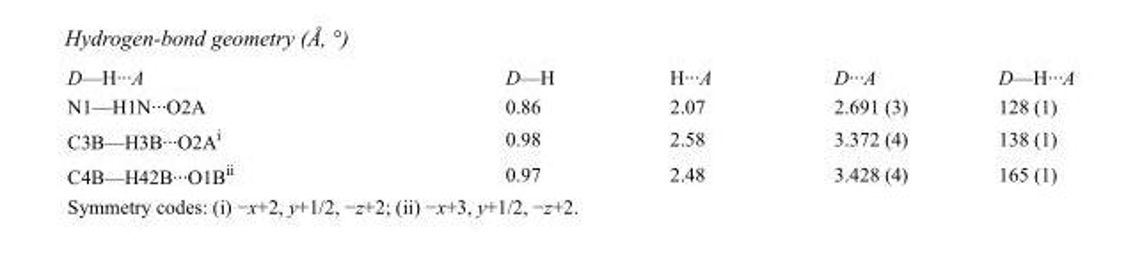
<table><tbody><tr><td>D—H···A</td><td>D—H</td><td>H···A</td><td>D···A</td><td>D—H···A</td></tr><tr><td>N1—H1N···O2A</td><td>0.86</td><td>2.07</td><td>2.691 (3)</td><td>128 (1)</td></tr><tr><td>C3B—H3B···O2A<sup>i</sup></td><td>0.98</td><td>2.58</td><td>3.372 (4)</td><td>138 (1)</td></tr><tr><td>C4B—H42B···O1B<sup>ii</sup></td><td>0.97</td><td>2.48</td><td>3.428 (4)</td><td>165 (1)</td></tr></tbody></table>